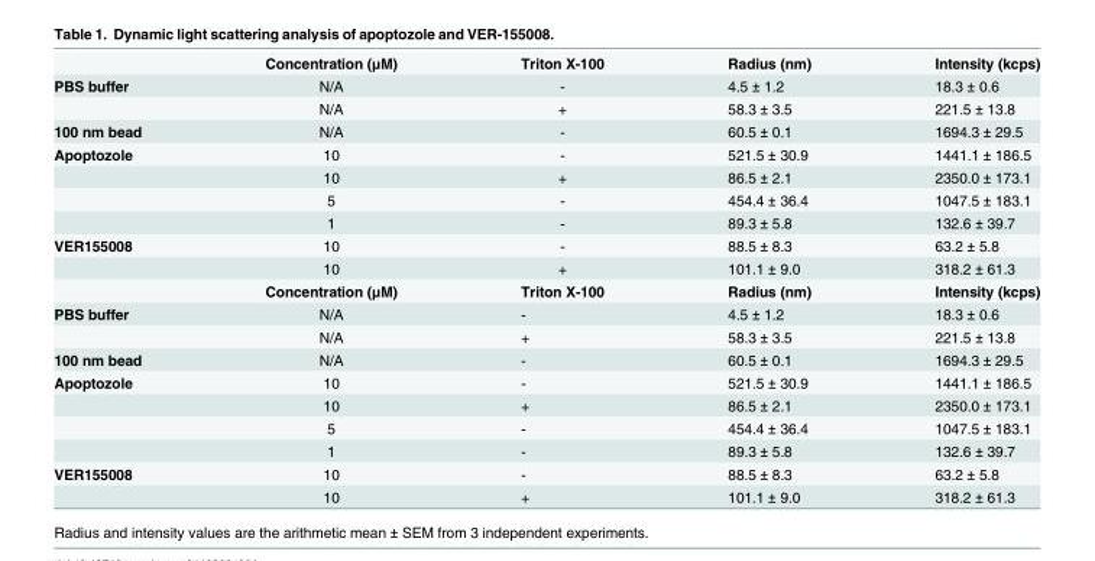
<table><thead><tr><td></td><td>Concentration (μM)</td><td>Triton X-100</td><td>Radius (nm)</td><td>Intensity (kcps)</td></tr></thead><tbody><tr><td rowspan="2">PBS buffer</td><td>N/A</td><td>-</td><td>4.5 ± 1.2</td><td>18.3 ± 0.6</td></tr><tr><td>N/A</td><td>+</td><td>58.3 ± 3.5</td><td>221.5 ± 13.8</td></tr><tr><td>100 nm bead</td><td>N/A</td><td>-</td><td>60.5 ± 0.1</td><td>1694.3 ± 29.5</td></tr><tr><td rowspan="4">Apoptozole</td><td>10</td><td>-</td><td>521.5 ± 30.9</td><td>1441.1 ± 186.5</td></tr><tr><td>10</td><td>+</td><td>86.5 ± 2.1</td><td>2350.0 ± 173.1</td></tr><tr><td>5</td><td>-</td><td>454.4 ± 36.4</td><td>1047.5 ± 183.1</td></tr><tr><td>1</td><td>-</td><td>89.3 ± 5.8</td><td>132.6 ± 39.7</td></tr><tr><td rowspan="3">VER155008</td><td>10</td><td>-</td><td>88.5 ± 8.3</td><td>63.2 ± 5.8</td></tr><tr><td>10</td><td>+</td><td>101.1 ± 9.0</td><td>318.2 ± 61.3</td></tr><tr><td>Concentration (μM)</td><td>Triton X-100</td><td>Radius (nm)</td><td>Intensity (kcps)</td></tr><tr><td rowspan="2">PBS buffer</td><td>N/A</td><td>-</td><td>4.5 ± 1.2</td><td>18.3 ± 0.6</td></tr><tr><td>N/A</td><td>+</td><td>58.3 ± 3.5</td><td>221.5 ± 13.8</td></tr><tr><td>100 nm bead</td><td>N/A</td><td>-</td><td>60.5 ± 0.1</td><td>1694.3 ± 29.5</td></tr><tr><td rowspan="4">Apoptozole</td><td>10</td><td>-</td><td>521.5 ± 30.9</td><td>1441.1 ± 186.5</td></tr><tr><td>10</td><td>+</td><td>86.5 ± 2.1</td><td>2350.0 ± 173.1</td></tr><tr><td>5</td><td>-</td><td>454.4 ± 36.4</td><td>1047.5 ± 183.1</td></tr><tr><td>1</td><td>-</td><td>89.3 ± 5.8</td><td>132.6 ± 39.7</td></tr><tr><td rowspan="2">VER155008</td><td>10</td><td>-</td><td>88.5 ± 8.3</td><td>63.2 ± 5.8</td></tr><tr><td>10</td><td>+</td><td>101.1 ± 9.0</td><td>318.2 ± 61.3</td></tr></tbody></table>